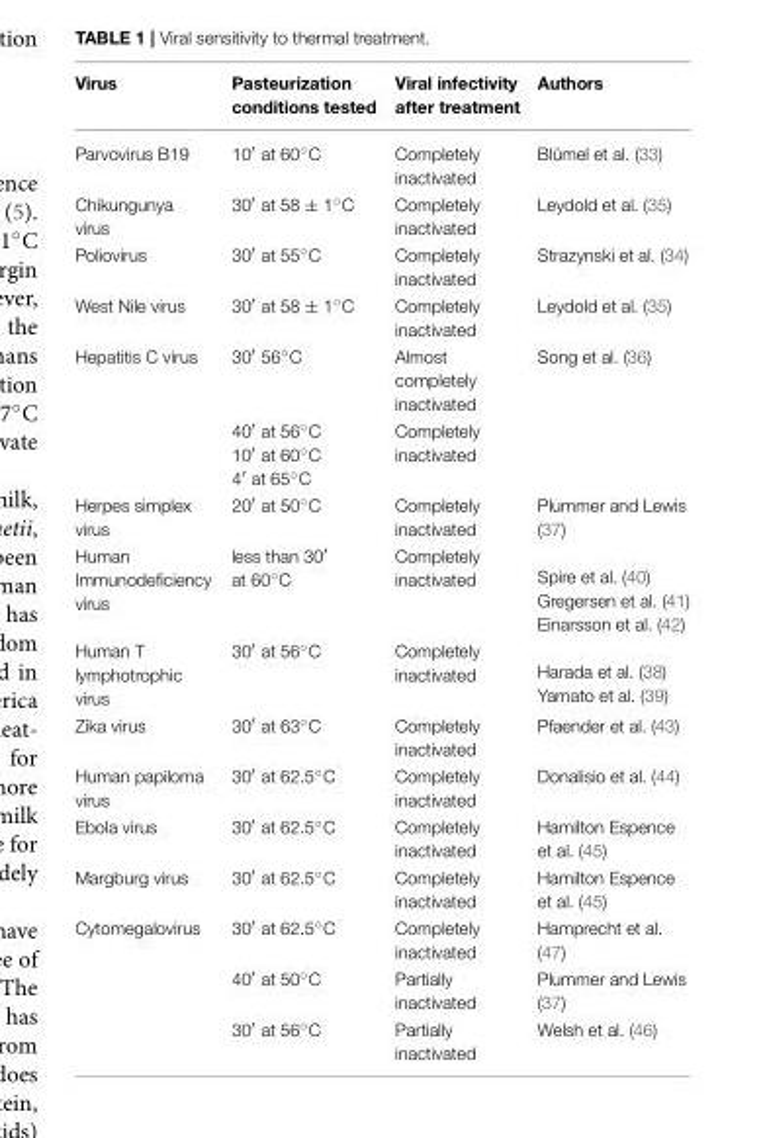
<table><thead><tr><td>Virus</td><td>Pasteurization conditions tested</td><td>Viral infectivity after treatment</td><td>Authors</td></tr></thead><tbody><tr><td>Parvovirus B19</td><td>10′ at 60◦C</td><td>Completely inactivated</td><td>Blümel et al. (33)</td></tr><tr><td>Chikungunya virus</td><td>30′ at 58 ± 1◦C</td><td>Completely inactivated</td><td>Leydold et al. (35)</td></tr><tr><td>Poliovirus</td><td>30′ at 55◦C</td><td>Completely inactivated</td><td>Strazynski et al. (34)</td></tr><tr><td>West Nile virus</td><td>30′ at 58 ± 1◦C</td><td>Completely inactivated</td><td>Leydold et al. (35)</td></tr><tr><td rowspan="2">Hepatitis C virus</td><td>30′ 56◦C</td><td>Almost completely inactivated</td><td>Song et al. (36)</td></tr><tr><td>40′ at 56◦C 10′ at 60◦C 4′ at 65◦C</td><td>Completely inactivated</td><td></td></tr><tr><td>Herpes simplex virus</td><td>20′ at 50◦C</td><td>Completely inactivated</td><td>Plummer and Lewis (37)</td></tr><tr><td>Human Immunodeficiency virus</td><td>less than 30′ at 60◦C</td><td>Completely inactivated</td><td>Spire et al. (40) Gregersen et al. (41) Einarsson et al. (42)</td></tr><tr><td>Human T lymphotrophic virus</td><td>30′ at 56◦C</td><td>Completely inactivated</td><td>Harada et al. (38) Yamato et al. (39)</td></tr><tr><td>Zika virus</td><td>30′ at 63◦C</td><td>Completely inactivated</td><td>Pfaender et al. (43)</td></tr><tr><td>Human papiloma virus</td><td>30′ at 62.5◦C</td><td>Completely inactivated</td><td>Donalisio et al. (44)</td></tr><tr><td>Ebola virus</td><td>30′ at 62.5◦C</td><td>Completely inactivated</td><td>Hamilton Espence et al. (45)</td></tr><tr><td>Margburg virus</td><td>30′ at 62.5◦C</td><td>Completely inactivated</td><td>Hamilton Espence et al. (45)</td></tr><tr><td rowspan="3">Cytomegalovirus</td><td>30′ at 62.5◦C</td><td>Completely inactivated</td><td>Hamprecht et al. (47)</td></tr><tr><td>40′ at 50◦C</td><td>Partially inactivated</td><td>Plummer and Lewis (37)</td></tr><tr><td>30′ at 56◦C</td><td>Partially inactivated</td><td>Welsh et al. (46)</td></tr></tbody></table>